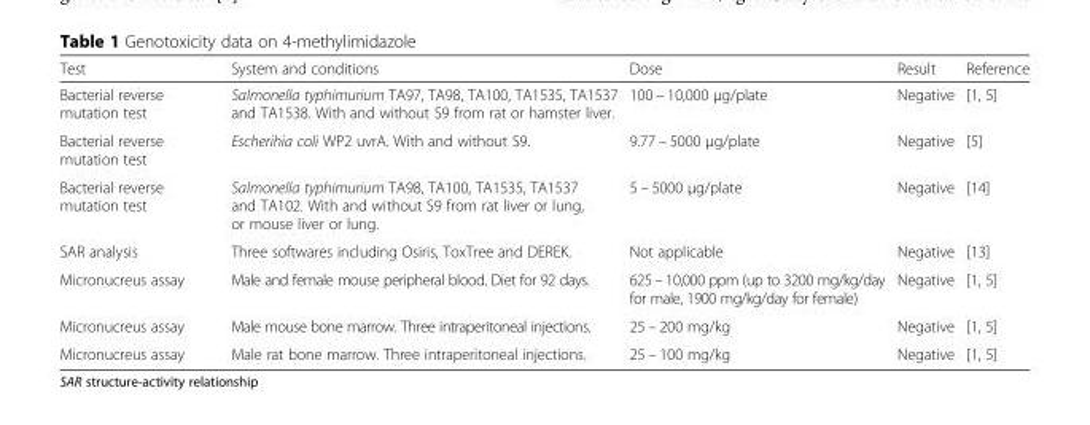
<table><thead><tr><td>Test</td><td>System and conditions</td><td>Dose</td><td>Result</td><td>Reference</td></tr></thead><tbody><tr><td>Bacterial reverse mutation test</td><td>Salmonella typhimurium TA97, TA98, TA100, TA1535, TA1537 and TA1538. With and without S9 from rat or hamster liver.</td><td>100 – 10,000 μg/plate</td><td>Negative</td><td>[1, 5]</td></tr><tr><td>Bacterial reverse mutation test</td><td>Escherihia coli WP2 uvrA. With and without S9.</td><td>9.77 – 5000 μg/plate</td><td>Negative</td><td>[5]</td></tr><tr><td>Bacterial reverse mutation test</td><td>Salmonella typhimurium TA98, TA100, TA1535, TA1537 and TA102. With and without S9 from rat liver or lung, or mouse liver or lung.</td><td>5 – 5000 μg/plate</td><td>Negative</td><td>[14]</td></tr><tr><td>SAR analysis</td><td>Three softwares including Osiris, ToxTree and DEREK.</td><td>Not applicable</td><td>Negative</td><td>[13]</td></tr><tr><td>Micronucreus assay</td><td>Male and female mouse peripheral blood. Diet for 92 days.</td><td>625 – 10,000 ppm (up to 3200 mg/kg/day for male, 1900 mg/kg/day for female)</td><td>Negative</td><td>[1, 5]</td></tr><tr><td>Micronucreus assay</td><td>Male mouse bone marrow. Three intraperitoneal injections.</td><td>25 – 200 mg/kg</td><td>Negative</td><td>[1, 5]</td></tr><tr><td>Micronucreus assay</td><td>Male rat bone marrow. Three intraperitoneal injections.</td><td>25 – 100 mg/kg</td><td>Negative</td><td>[1, 5]</td></tr></tbody></table>